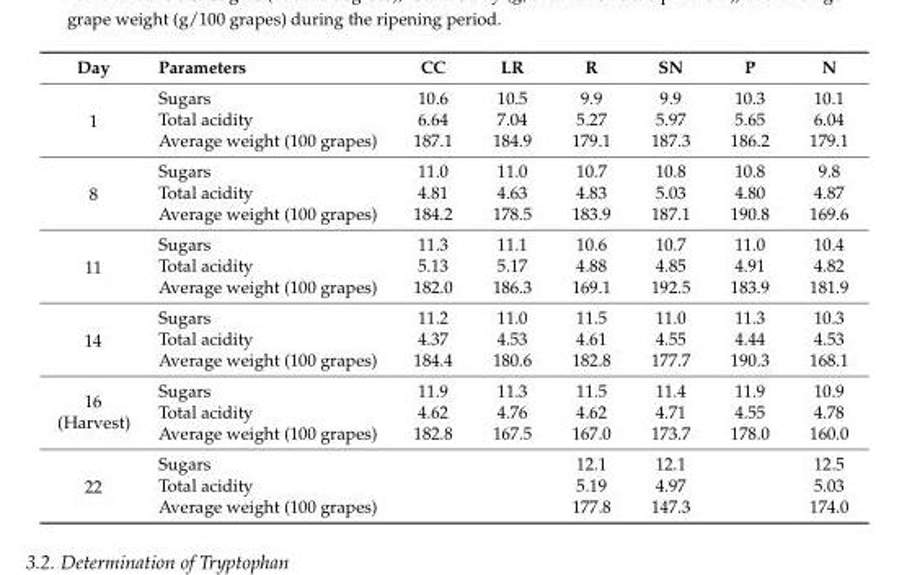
<table><thead><tr><td>Day</td><td>Parameters</td><td>CC</td><td>LR</td><td>R</td><td>SN</td><td>P</td><td>N</td></tr></thead><tbody><tr><td rowspan="3">1</td><td>Sugars</td><td>10.6</td><td>10.5</td><td>9.9</td><td>9.9</td><td>10.3</td><td>10.1</td></tr><tr><td>Total acidity</td><td>6.64</td><td>7.04</td><td>5.27</td><td>5.97</td><td>5.65</td><td>6.04</td></tr><tr><td>Average weight (100 grapes)</td><td>187.1</td><td>184.9</td><td>179.1</td><td>187.3</td><td>186.2</td><td>179.1</td></tr><tr><td rowspan="3">8</td><td>Sugars</td><td>11.0</td><td>11.0</td><td>10.7</td><td>10.8</td><td>10.8</td><td>9.8</td></tr><tr><td>Total acidity</td><td>4.81</td><td>4.63</td><td>4.83</td><td>5.03</td><td>4.80</td><td>4.87</td></tr><tr><td>Average weight (100 grapes)</td><td>184.2</td><td>178.5</td><td>183.9</td><td>187.1</td><td>190.8</td><td>169.6</td></tr><tr><td rowspan="3">11</td><td>Sugars</td><td>11.3</td><td>11.1</td><td>10.6</td><td>10.7</td><td>11.0</td><td>10.4</td></tr><tr><td>Total acidity</td><td>5.13</td><td>5.17</td><td>4.88</td><td>4.85</td><td>4.91</td><td>4.82</td></tr><tr><td>Average weight (100 grapes)</td><td>182.0</td><td>186.3</td><td>169.1</td><td>192.5</td><td>183.9</td><td>181.9</td></tr><tr><td rowspan="3">14</td><td>Sugars</td><td>11.2</td><td>11.0</td><td>11.5</td><td>11.0</td><td>11.3</td><td>10.3</td></tr><tr><td>Total acidity</td><td>4.37</td><td>4.53</td><td>4.61</td><td>4.55</td><td>4.44</td><td>4.53</td></tr><tr><td>Average weight (100 grapes)</td><td>184.4</td><td>180.6</td><td>182.8</td><td>177.7</td><td>190.3</td><td>168.1</td></tr><tr><td rowspan="3">16 (Harvest)</td><td>Sugars</td><td>11.9</td><td>11.3</td><td>11.5</td><td>11.4</td><td>11.9</td><td>10.9</td></tr><tr><td>Total acidity</td><td>4.62</td><td>4.76</td><td>4.62</td><td>4.71</td><td>4.55</td><td>4.78</td></tr><tr><td>Average weight (100 grapes)</td><td>182.8</td><td>167.5</td><td>167.0</td><td>173.7</td><td>178.0</td><td>160.0</td></tr><tr><td rowspan="3">22</td><td>Sugars</td><td></td><td></td><td>12.1</td><td>12.1</td><td></td><td>12.5</td></tr><tr><td>Total acidity</td><td></td><td></td><td>5.19</td><td>4.97</td><td></td><td>5.03</td></tr><tr><td>Average weight (100 grapes)</td><td></td><td></td><td>177.8</td><td>147.3</td><td></td><td>174.0</td></tr></tbody></table>